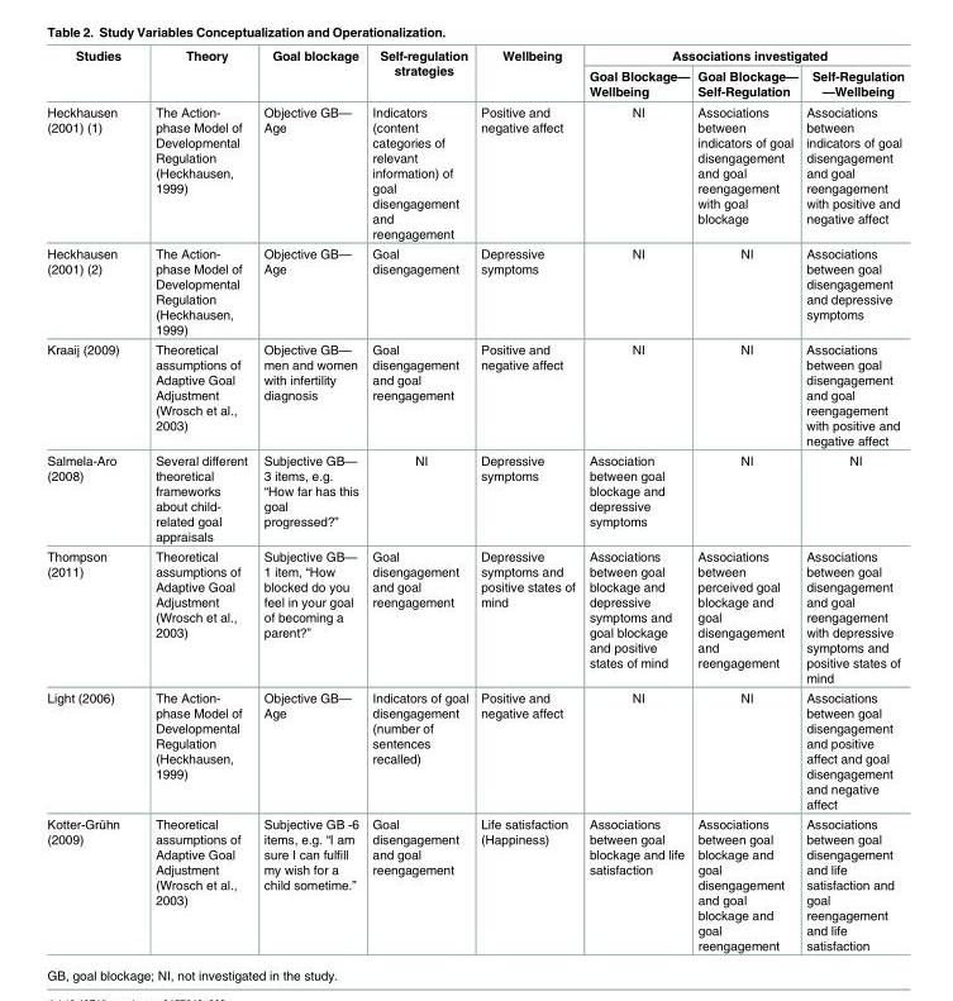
<table><thead><tr><td rowspan="2">Studies</td><td rowspan="2">Theory</td><td rowspan="2">Goal blockage</td><td rowspan="2">Self-regulation strategies</td><td rowspan="2">Wellbeing</td><td colspan="3">Associations investigated</td></tr><tr><td>Goal Blockage— Wellbeing</td><td>Goal Blockage— Self-Regulation</td><td>Self-Regulation —Wellbeing</td></tr></thead><tbody><tr><td>Heckhausen (2001) (1)</td><td>The Action- phase Model of Developmental Regulation (Heckhausen, 1999)</td><td>Objective GB— Age</td><td>Indicators (content categories of relevant information) of goal disengagement and reengagement</td><td>Positive and negative affect</td><td>NI</td><td>Associations between indicators of goal disengagement and goal reengagement with goal blockage</td><td>Associations between indicators of goal disengagement and goal reengagement with positive and negative affect</td></tr><tr><td>Heckhausen (2001) (2)</td><td>The Action- phase Model of Developmental Regulation (Heckhausen, 1999)</td><td>Objective GB— Age</td><td>Goal disengagement</td><td>Depressive symptoms</td><td>NI</td><td>NI</td><td>Associations between goal disengagement and depressive symptoms</td></tr><tr><td>Kraaij (2009)</td><td>Theoretical assumptions of Adaptive Goal Adjustment (Wrosch et al., 2003)</td><td>Objective GB— men and women with infertility diagnosis</td><td>Goal disengagement and goal reengagement</td><td>Positive and negative affect</td><td>NI</td><td>NI</td><td>Associations between goal disengagement and goal reengagement with positive and negative affect</td></tr><tr><td>Salmela-Aro (2008)</td><td>Several different theoretical frameworks about child- related goal appraisals</td><td>Subjective GB— 3 items, e.g. “How far has this goal progressed?”</td><td>NI</td><td>Depressive symptoms</td><td>Association between goal blockage and depressive symptoms</td><td>NI</td><td>NI</td></tr><tr><td>Thompson (2011)</td><td>Theoretical assumptions of Adaptive Goal Adjustment (Wrosch et al., 2003)</td><td>Subjective GB— 1 item, “How blocked do you feel in your goal of becoming a parent?”</td><td>Goal disengagement and goal reengagement</td><td>Depressive symptoms and positive states of mind</td><td>Associations between goal blockage and depressive symptoms and goal blockage and positive states of mind</td><td>Associations between perceived goal blockage and goal disengagement and reengagement</td><td>Associations between goal disengagement and goal reengagement with depressive symptoms and positive states of mind</td></tr><tr><td>Light (2006)</td><td>The Action- phase Model of Developmental Regulation (Heckhausen, 1999)</td><td>Objective GB— Age</td><td>Indicators of goal disengagement (number of sentences recalled)</td><td>Positive and negative affect</td><td>NI</td><td>NI</td><td>Associations between goal disengagement and positive affect and goal disengagement and negative affect</td></tr><tr><td>Kotter-Grühn (2009)</td><td>Theoretical assumptions of Adaptive Goal Adjustment (Wrosch et al., 2003)</td><td>Subjective GB -6 items, e.g. “I am sure I can fulfill my wish for a child sometime.”</td><td>Goal disengagement and goal reengagement</td><td>Life satisfaction (Happiness)</td><td>Associations between goal blockage and life satisfaction</td><td>Associations between goal blockage and goal disengagement and goal blockage and goal reengagement</td><td>Associations between goal disengagement and life satisfaction and goal reengagement and life satisfaction</td></tr></tbody></table>